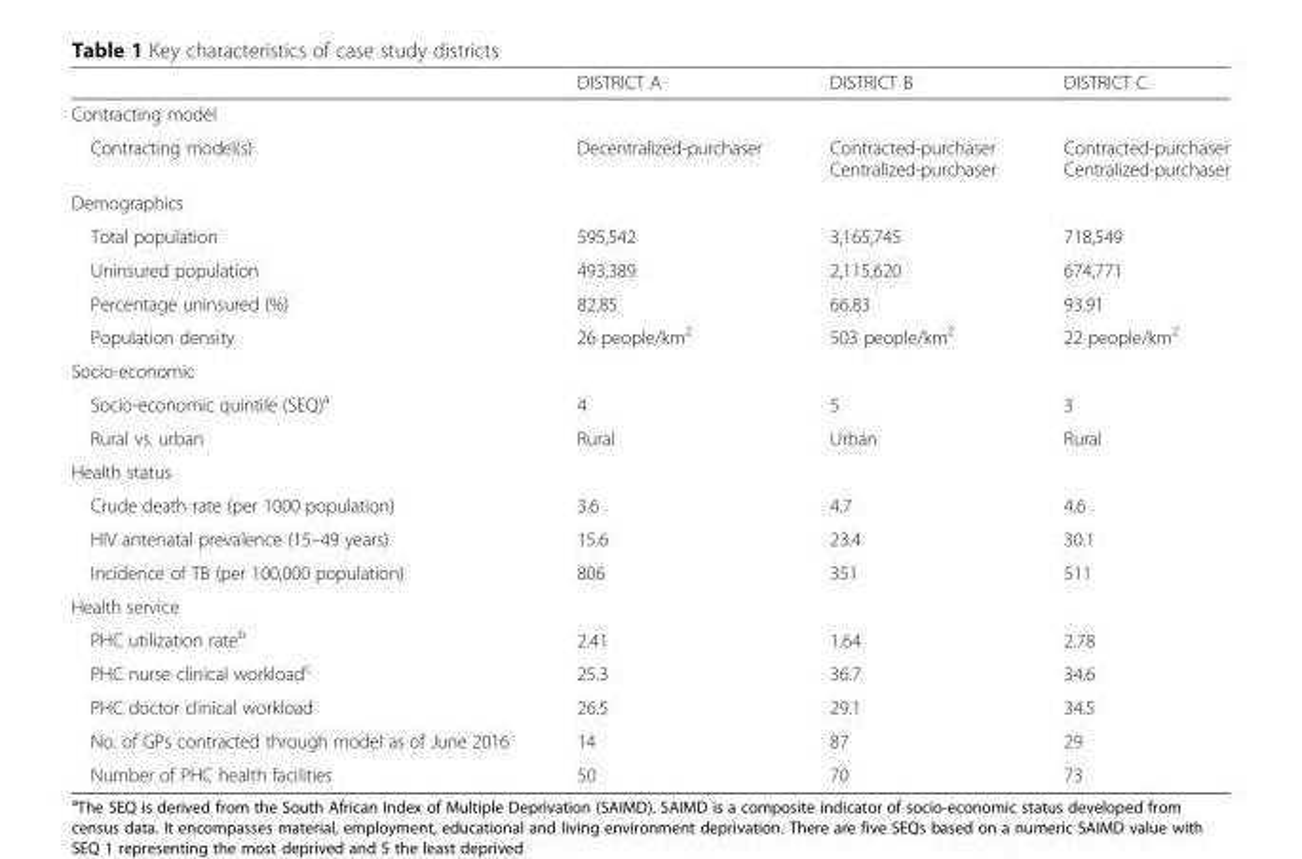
<table><thead><tr><td></td><td>DISTRICT A</td><td>DISTRICT B</td><td>DISTRICT C</td></tr></thead><tbody><tr><td colspan="4">Contracting model</td></tr><tr><td>Contracting model(s)</td><td>Decentralized-purchaser</td><td>Contracted-purchaser Centralized-purchaser</td><td>Contracted-purchaser Centralized-purchaser</td></tr><tr><td colspan="4">Demographics</td></tr><tr><td>Total population</td><td>595,542</td><td>3,165,745</td><td>718,549</td></tr><tr><td>Uninsured population</td><td>493,389</td><td>2,115,620</td><td>674,771</td></tr><tr><td>Percentage uninsured (%)</td><td>82.85</td><td>66.83</td><td>93.91</td></tr><tr><td>Population density</td><td>26 people/km<sup>2</sup></td><td>503 people/km<sup>2</sup></td><td>22 people/km<sup>2</sup></td></tr><tr><td colspan="4">Socio-economic</td></tr><tr><td>Socio-economic quintile (SEQ)<sup>a</sup></td><td>4</td><td>5</td><td>3</td></tr><tr><td>Rural vs. urban</td><td>Rural</td><td>Urban</td><td>Rural</td></tr><tr><td colspan="4">Health status</td></tr><tr><td>Crude death rate (per 1000 population)</td><td>3.6</td><td>4.7</td><td>4.6</td></tr><tr><td>HIV antenatal prevalence (15–49 years)</td><td>15.6</td><td>23.4</td><td>30.1</td></tr><tr><td>Incidence of TB (per 100,000 population)</td><td>806</td><td>351</td><td>511</td></tr><tr><td colspan="4">Health service</td></tr><tr><td>PHC utilization rate<sup>b</sup></td><td>2.41</td><td>1.64</td><td>2.78</td></tr><tr><td>PHC nurse clinical workload<sup>c</sup></td><td>25.3</td><td>36.7</td><td>34.6</td></tr><tr><td>PHC doctor clinical workload</td><td>26.5</td><td>29.1</td><td>34.5</td></tr><tr><td>No. of GPs contracted through model as of June 2016</td><td>14</td><td>87</td><td>29</td></tr><tr><td>Number of PHC health facilities</td><td>50</td><td>70</td><td>73</td></tr></tbody></table>